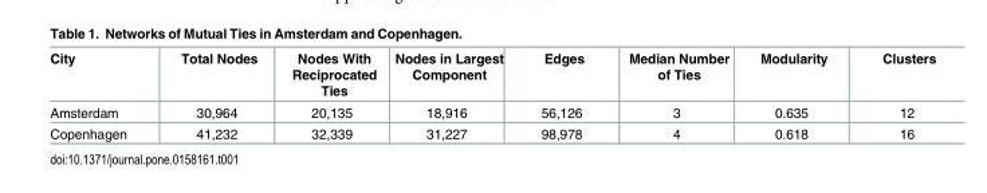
<table><thead><tr><td>City</td><td>Total Nodes</td><td>Nodes With Reciprocated Ties</td><td>Nodes in Largest Component</td><td>Edges</td><td>Median Number of Ties</td><td>Modularity</td><td>Clusters</td></tr></thead><tbody><tr><td>Amsterdam</td><td>30,964</td><td>20,135</td><td>18,916</td><td>56,126</td><td>3</td><td>0.635</td><td>12</td></tr><tr><td>Copenhagen</td><td>41,232</td><td>32,339</td><td>31,227</td><td>98,978</td><td>4</td><td>0.618</td><td>16</td></tr></tbody></table>